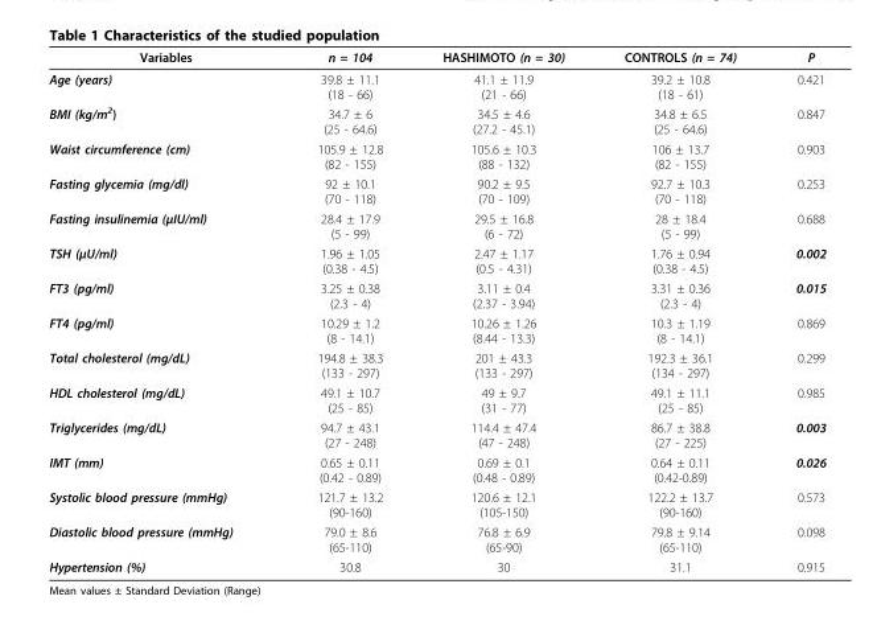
<table><thead><tr><td>Variables</td><td>n = 104</td><td>HASHIMOTO (n = 30)</td><td>CONTROLS (n = 74)</td><td>P</td></tr></thead><tbody><tr><td>Age (years)</td><td>39.8 ± 11.1 (18 - 66)</td><td>41.1 ± 11.9 (21 - 66)</td><td>39.2 ± 10.8 (18 - 61)</td><td>0.421</td></tr><tr><td>BMI (kg/m<sup>2</sup>)</td><td>34.7 ± 6 (25 - 64.6)</td><td>34.5 ± 4.6 (27.2 - 45.1)</td><td>34.8 ± 6.5 (25 - 64.6)</td><td>0.847</td></tr><tr><td>Waist circumference (cm)</td><td>105.9 ± 12.8 (82 - 155)</td><td>105.6 ± 10.3 (88 - 132)</td><td>106 ± 13.7 (82 - 155)</td><td>0.903</td></tr><tr><td>Fasting glycemia (mg/dl)</td><td>92 ± 10.1 (70 - 118)</td><td>90.2 ± 9.5 (70 - 109)</td><td>92.7 ± 10.3 (70 - 118)</td><td>0.253</td></tr><tr><td>Fasting insulinemia (μIU/ml)</td><td>28.4 ± 17.9 (5 - 99)</td><td>29.5 ± 16.8 (6 - 72)</td><td>28 ± 18.4 (5 - 99)</td><td>0.688</td></tr><tr><td>TSH (μU/ml)</td><td>1.96 ± 1.05 (0.38 - 4.5)</td><td>2.47 ± 1.17 (0.5 - 4.31)</td><td>1.76 ± 0.94 (0.38 - 4.5)</td><td>0.002</td></tr><tr><td>FT3 (pg/ml)</td><td>3.25 ± 0.38 (2.3 - 4)</td><td>3.11 ± 0.4 (2.37 - 3.94)</td><td>3.31 ± 0.36 (2.3 - 4)</td><td>0.015</td></tr><tr><td>FT4 (pg/ml)</td><td>10.29 ± 1.2 (8 - 14.1)</td><td>10.26 ± 1.26 (8.44 - 13.3)</td><td>10.3 ± 1.19 (8 - 14.1)</td><td>0.869</td></tr><tr><td>Total cholesterol (mg/dL)</td><td>194.8 ± 38.3 (133 - 297)</td><td>201 ± 43.3 (133 - 297)</td><td>192.3 ± 36.1 (134 - 297)</td><td>0.299</td></tr><tr><td>HDL cholesterol (mg/dL)</td><td>49.1 ± 10.7 (25 - 85)</td><td>49 ± 9.7 (31 - 77)</td><td>49.1 ± 11.1 (25 - 85)</td><td>0.985</td></tr><tr><td>Triglycerides (mg/dL)</td><td>94.7 ± 43.1 (27 - 248)</td><td>114.4 ± 47.4 (47 - 248)</td><td>86.7 ± 38.8 (27 - 225)</td><td>0.003</td></tr><tr><td>IMT (mm)</td><td>0.65 ± 0.11 (0.42 - 0.89)</td><td>0.69 ± 0.1 (0.48 - 0.89)</td><td>0.64 ± 0.11 (0.42-0.89)</td><td>0.026</td></tr><tr><td>Systolic blood pressure (mmHg)</td><td>121.7 ± 13.2 (90-160)</td><td>120.6 ± 12.1 (105-150)</td><td>122.2 ± 13.7 (90-160)</td><td>0.573</td></tr><tr><td>Diastolic blood pressure (mmHg)</td><td>79.0 ± 8.6 (65-110)</td><td>76.8 ± 6.9 (65-90)</td><td>79.8 ± 9.14 (65-110)</td><td>0.098</td></tr><tr><td>Hypertension (%)</td><td>30.8</td><td>30</td><td>31.1</td><td>0.915</td></tr></tbody></table>